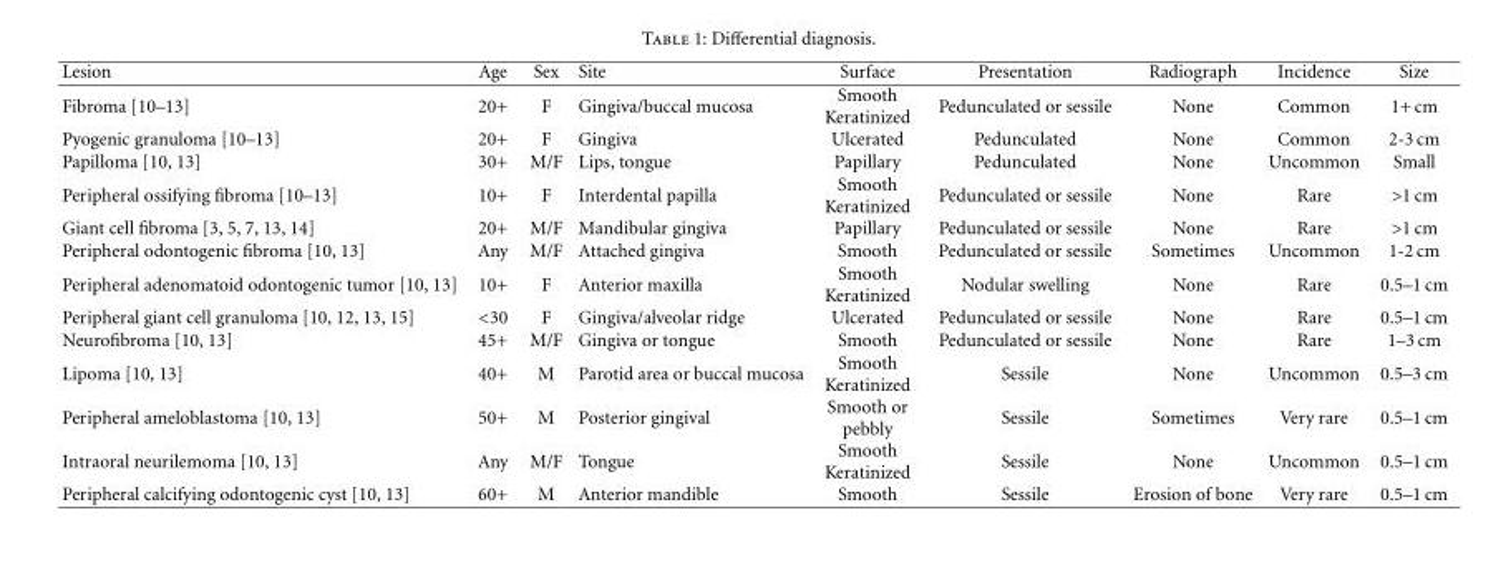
<table><thead><tr><td>Lesion</td><td>Age</td><td>Sex</td><td>Site</td><td>Surface</td><td>Presentation</td><td>Radiograph</td><td>Incidence</td><td>Size</td></tr></thead><tbody><tr><td>Fibroma [10–13]</td><td>20+</td><td>F</td><td>Gingiva/buccal mucosa</td><td>Smooth Keratinized</td><td>Pedunculated or sessile</td><td>None</td><td>Common</td><td>1+ cm</td></tr><tr><td>Pyogenic granuloma [10–13]</td><td>20+</td><td>F</td><td>Gingiva</td><td>Ulcerated</td><td>Pedunculated</td><td>None</td><td>Common</td><td>2-3 cm</td></tr><tr><td>Papilloma [10, 13]</td><td>30+</td><td>M/F</td><td>Lips, tongue</td><td>Papillary</td><td>Pedunculated</td><td>None</td><td>Uncommon</td><td>Small</td></tr><tr><td>Peripheral ossifying fibroma [10–13]</td><td>10+</td><td>F</td><td>Interdental papilla</td><td>Smooth Keratinized</td><td>Pedunculated or sessile</td><td>None</td><td>Rare</td><td>&gt;1 cm</td></tr><tr><td>Giant cell fibroma [3, 5, 7, 13, 14]</td><td>20+</td><td>M/F</td><td>Mandibular gingiva</td><td>Papillary</td><td>Pedunculated or sessile</td><td>None</td><td>Rare</td><td>&gt;1 cm</td></tr><tr><td>Peripheral odontogenic fibroma [10, 13]</td><td>Any</td><td>M/F</td><td>Attached gingiva</td><td>Smooth</td><td>Pedunculated or sessile</td><td>Sometimes</td><td>Uncommon</td><td>1-2 cm</td></tr><tr><td>Peripheral adenomatoid odontogenic tumor [10, 13]</td><td>10+</td><td>F</td><td>Anterior maxilla</td><td>Smooth Keratinized</td><td>Nodular swelling</td><td>None</td><td>Rare</td><td>0.5–1 cm</td></tr><tr><td>Peripheral giant cell granuloma [10, 12, 13, 15]</td><td>&lt;30</td><td>F</td><td>Gingiva/alveolar ridge</td><td>Ulcerated</td><td>Pedunculated or sessile</td><td>None</td><td>Rare</td><td>0.5–1 cm</td></tr><tr><td>Neurofibroma [10, 13]</td><td>45+</td><td>M/F</td><td>Gingiva or tongue</td><td>Smooth</td><td>Pedunculated or sessile</td><td>None</td><td>Rare</td><td>1–3 cm</td></tr><tr><td>Lipoma [10, 13]</td><td>40+</td><td>M</td><td>Parotid area or buccal mucosa</td><td>Smooth Keratinized</td><td>Sessile</td><td>None</td><td>Uncommon</td><td>0.5–3 cm</td></tr><tr><td>Peripheral ameloblastoma [10, 13]</td><td>50+</td><td>M</td><td>Posterior gingival</td><td>Smooth or pebbly</td><td>Sessile</td><td>Sometimes</td><td>Very rare</td><td>0.5–1 cm</td></tr><tr><td>Intraoral neurilemoma [10, 13]</td><td>Any</td><td>M/F</td><td>Tongue</td><td>Smooth Keratinized</td><td>Sessile</td><td>None</td><td>Uncommon</td><td>0.5–1 cm</td></tr><tr><td>Peripheral calcifying odontogenic cyst [10, 13]</td><td>60+</td><td>M</td><td>Anterior mandible</td><td>Smooth</td><td>Sessile</td><td>Erosion of bone</td><td>Very rare</td><td>0.5–1 cm</td></tr></tbody></table>